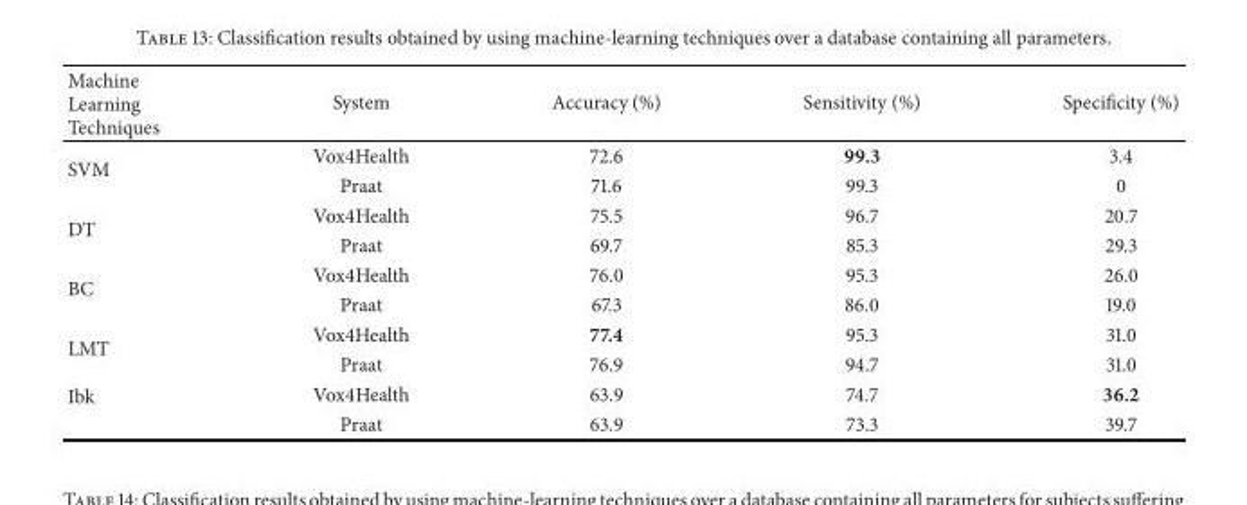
<table><thead><tr><td>Machine Learning Techniques</td><td>System</td><td>Accuracy (%)</td><td>Sensitivity (%)</td><td>Specificity (%)</td></tr></thead><tbody><tr><td rowspan="2">SVM</td><td>Vox4Health</td><td>72.6</td><td>99.3</td><td>3.4</td></tr><tr><td>Praat</td><td>71.6</td><td>99.3</td><td>0</td></tr><tr><td rowspan="2">DT</td><td>Vox4Health</td><td>75.5</td><td>96.7</td><td>20.7</td></tr><tr><td>Praat</td><td>69.7</td><td>85.3</td><td>29.3</td></tr><tr><td rowspan="2">BC</td><td>Vox4Health</td><td>76.0</td><td>95.3</td><td>26.0</td></tr><tr><td>Praat</td><td>67.3</td><td>86.0</td><td>19.0</td></tr><tr><td rowspan="2">LMT</td><td>Vox4Health</td><td>77.4</td><td>95.3</td><td>31.0</td></tr><tr><td>Praat</td><td>76.9</td><td>94.7</td><td>31.0</td></tr><tr><td rowspan="2">Ibk</td><td>Vox4Health</td><td>63.9</td><td>74.7</td><td>36.2</td></tr><tr><td>Praat</td><td>63.9</td><td>73.3</td><td>39.7</td></tr></tbody></table>